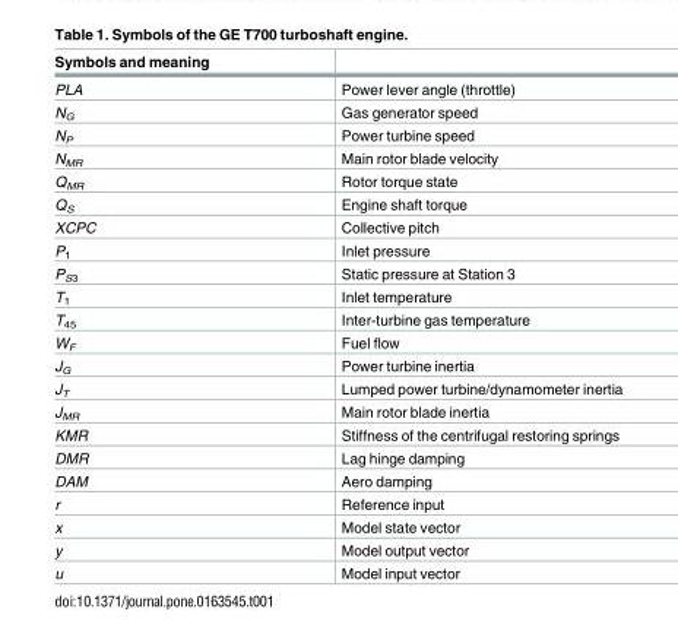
<table><thead><tr><td>Symbols and meaning</td><td></td></tr></thead><tbody><tr><td>PLA</td><td>Power lever angle (throttle)</td></tr><tr><td>N<sub>G</sub></td><td>Gas generator speed</td></tr><tr><td>N<sub>P</sub></td><td>Power turbine speed</td></tr><tr><td>N<sub>MR</sub></td><td>Main rotor blade velocity</td></tr><tr><td>Q<sub>MR</sub></td><td>Rotor torque state</td></tr><tr><td>Q<sub>S</sub></td><td>Engine shaft torque</td></tr><tr><td>XCPC</td><td>Collective pitch</td></tr><tr><td>P<sub>1</sub></td><td>Inlet pressure</td></tr><tr><td>P<sub>S3</sub></td><td>Static pressure at Station 3</td></tr><tr><td>T<sub>1</sub></td><td>Inlet temperature</td></tr><tr><td>T<sub>45</sub></td><td>Inter-turbine gas temperature</td></tr><tr><td>W<sub>F</sub></td><td>Fuel flow</td></tr><tr><td>J<sub>G</sub></td><td>Power turbine inertia</td></tr><tr><td>J<sub>T</sub></td><td>Lumped power turbine/dynamometer inertia</td></tr><tr><td>J<sub>MR</sub></td><td>Main rotor blade inertia</td></tr><tr><td>KMR</td><td>Stiffness of the centrifugal restoring springs</td></tr><tr><td>DMR</td><td>Lag hinge damping</td></tr><tr><td>DAM</td><td>Aero damping</td></tr><tr><td>r</td><td>Reference input</td></tr><tr><td>x</td><td>Model state vector</td></tr><tr><td>y</td><td>Model output vector</td></tr><tr><td>u</td><td>Model input vector</td></tr></tbody></table>